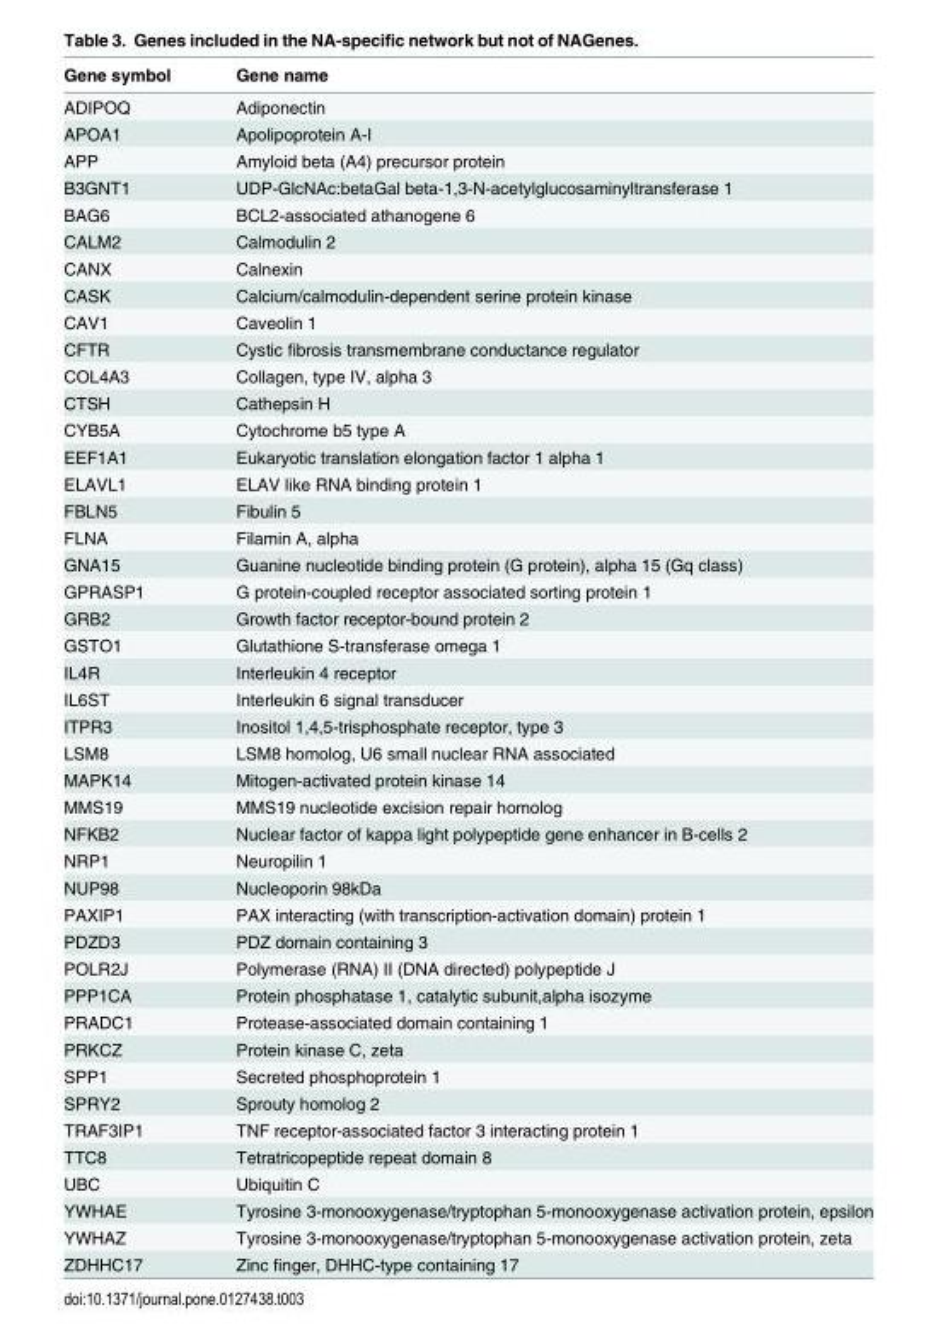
<table><thead><tr><td>Gene symbol</td><td>Gene name</td></tr></thead><tbody><tr><td>ADIPOQ</td><td>Adiponectin</td></tr><tr><td>APOA1</td><td>Apolipoprotein A-I</td></tr><tr><td>APP</td><td>Amyloid beta (A4) precursor protein</td></tr><tr><td>B3GNT1</td><td>UDP-GlcNAc:betaGal beta-1,3-N-acetylglucosaminyltransferase 1</td></tr><tr><td>BAG6</td><td>BCL2-associated athanogene 6</td></tr><tr><td>CALM2</td><td>Calmodulin 2</td></tr><tr><td>CANX</td><td>Calnexin</td></tr><tr><td>CASK</td><td>Calcium/calmodulin-dependent serine protein kinase</td></tr><tr><td>CAV1</td><td>Caveolin 1</td></tr><tr><td>CFTR</td><td>Cystic fibrosis transmembrane conductance regulator</td></tr><tr><td>COL4A3</td><td>Collagen, type IV, alpha 3</td></tr><tr><td>CTSH</td><td>Cathepsin H</td></tr><tr><td>CYB5A</td><td>Cytochrome b5 type A</td></tr><tr><td>EEF1A1</td><td>Eukaryotic translation elongation factor 1 alpha 1</td></tr><tr><td>ELAVL1</td><td>ELAV like RNA binding protein 1</td></tr><tr><td>FBLN5</td><td>Fibulin 5</td></tr><tr><td>FLNA</td><td>Filamin A, alpha</td></tr><tr><td>GNA15</td><td>Guanine nucleotide binding protein (G protein), alpha 15 (Gq class)</td></tr><tr><td>GPRASP1</td><td>G protein-coupled receptor associated sorting protein 1</td></tr><tr><td>GRB2</td><td>Growth factor receptor-bound protein 2</td></tr><tr><td>GSTO1</td><td>Glutathione S-transferase omega 1</td></tr><tr><td>IL4R</td><td>Interleukin 4 receptor</td></tr><tr><td>IL6ST</td><td>Interleukin 6 signal transducer</td></tr><tr><td>ITPR3</td><td>Inositol 1,4,5-trisphosphate receptor, type 3</td></tr><tr><td>LSM8</td><td>LSM8 homolog, U6 small nuclear RNA associated</td></tr><tr><td>MAPK14</td><td>Mitogen-activated protein kinase 14</td></tr><tr><td>MMS19</td><td>MMS19 nucleotide excision repair homolog</td></tr><tr><td>NFKB2</td><td>Nuclear factor of kappa light polypeptide gene enhancer in B-cells 2</td></tr><tr><td>NRP1</td><td>Neuropilin 1</td></tr><tr><td>NUP98</td><td>Nucleoporin 98kDa</td></tr><tr><td>PAXIP1</td><td>PAX interacting (with transcription-activation domain) protein 1</td></tr><tr><td>PDZD3</td><td>PDZ domain containing 3</td></tr><tr><td>POLR2J</td><td>Polymerase (RNA) II (DNA directed) polypeptide J</td></tr><tr><td>PPP1CA</td><td>Protein phosphatase 1, catalytic subunit,alpha isozyme</td></tr><tr><td>PRADC1</td><td>Protease-associated domain containing 1</td></tr><tr><td>PRKCZ</td><td>Protein kinase C, zeta</td></tr><tr><td>SPP1</td><td>Secreted phosphoprotein 1</td></tr><tr><td>SPRY2</td><td>Sprouty homolog 2</td></tr><tr><td>TRAF3IP1</td><td>TNF receptor-associated factor 3 interacting protein 1</td></tr><tr><td>TTC8</td><td>Tetratricopeptide repeat domain 8</td></tr><tr><td>UBC</td><td>Ubiquitin C</td></tr><tr><td>YWHAE</td><td>Tyrosine 3-monooxygenase/tryptophan 5-monooxygenase activation protein, epsilon</td></tr><tr><td>YWHAZ</td><td>Tyrosine 3-monooxygenase/tryptophan 5-monooxygenase activation protein, zeta</td></tr><tr><td>ZDHHC17</td><td>Zinc finger, DHHC-type containing 17</td></tr></tbody></table>